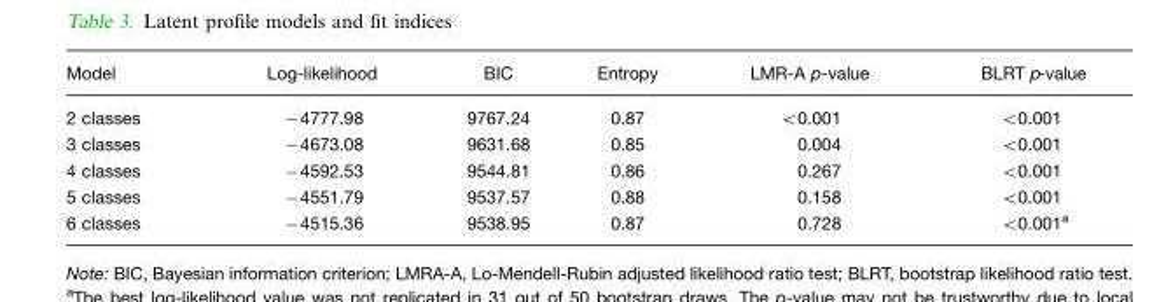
<table><thead><tr><td>Model</td><td>Log-likelihood</td><td>BIC</td><td>Entropy</td><td>LMR-A p-value</td><td>BLRT p-value</td></tr></thead><tbody><tr><td>2 classes</td><td>−4777.98</td><td>9767.24</td><td>0.87</td><td>&lt;0.001</td><td>&lt;0.001</td></tr><tr><td>3 classes</td><td>−4673.08</td><td>9631.68</td><td>0.85</td><td>0.004</td><td>&lt;0.001</td></tr><tr><td>4 classes</td><td>−4592.53</td><td>9544.81</td><td>0.86</td><td>0.267</td><td>&lt;0.001</td></tr><tr><td>5 classes</td><td>−4551.79</td><td>9537.57</td><td>0.88</td><td>0.158</td><td>&lt;0.001</td></tr><tr><td>6 classes</td><td>−4515.36</td><td>9538.95</td><td>0.87</td><td>0.728</td><td>&lt;0.001<sup>a</sup></td></tr></tbody></table>